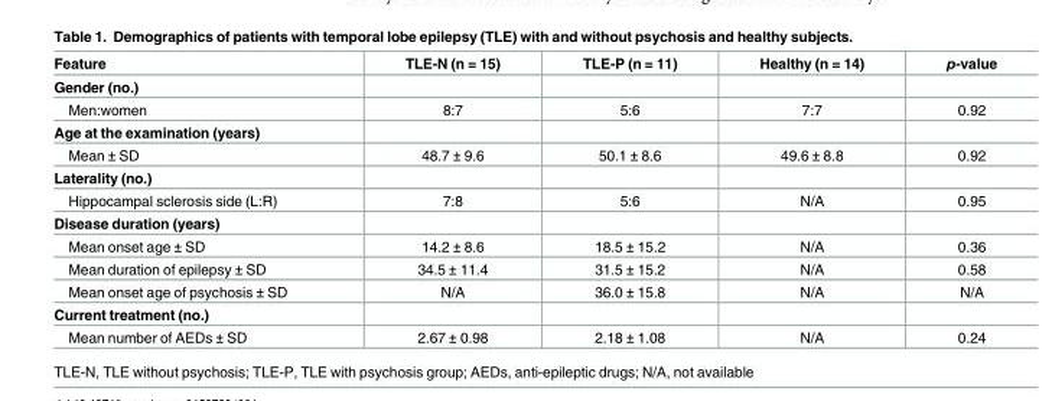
<table><thead><tr><td>Feature</td><td>TLE-N (n = 15)</td><td>TLE-P (n = 11)</td><td>Healthy (n = 14)</td><td>p-value</td></tr></thead><tbody><tr><td colspan="5">Gender (no.)</td></tr><tr><td>Men:women</td><td>8:7</td><td>5:6</td><td>7:7</td><td>0.92</td></tr><tr><td colspan="5">Age at the examination (years)</td></tr><tr><td>Mean ± SD</td><td>48.7 ± 9.6</td><td>50.1 ± 8.6</td><td>49.6 ± 8.8</td><td>0.92</td></tr><tr><td colspan="5">Laterality (no.)</td></tr><tr><td>Hippocampal sclerosis side (L:R)</td><td>7:8</td><td>5:6</td><td>N/A</td><td>0.95</td></tr><tr><td colspan="5">Disease duration (years)</td></tr><tr><td>Mean onset age ± SD</td><td>14.2 ± 8.6</td><td>18.5 ± 15.2</td><td>N/A</td><td>0.36</td></tr><tr><td>Mean duration of epilepsy ± SD</td><td>34.5 ± 11.4</td><td>31.5 ± 15.2</td><td>N/A</td><td>0.58</td></tr><tr><td>Mean onset age of psychosis ± SD</td><td>N/A</td><td>36.0 ± 15.8</td><td>N/A</td><td>N/A</td></tr><tr><td colspan="5">Current treatment (no.)</td></tr><tr><td>Mean number of AEDs ± SD</td><td>2.67 ± 0.98</td><td>2.18 ± 1.08</td><td>N/A</td><td>0.24</td></tr></tbody></table>